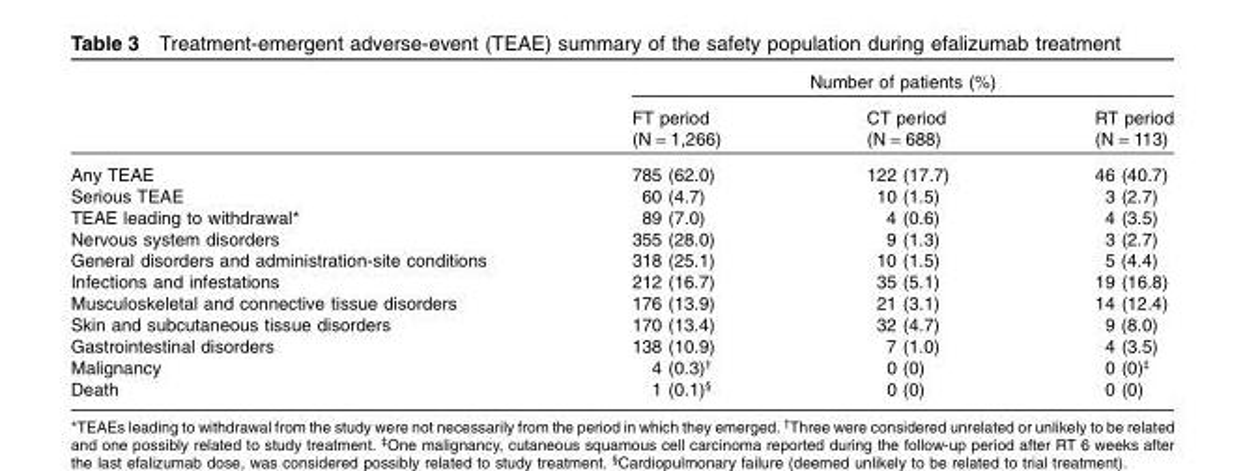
<table><thead><tr><td rowspan="2"></td><td colspan="3">Number of patients (%)</td></tr><tr><td>FT period (N = 1,266)</td><td>CT period (N = 688)</td><td>RT period (N = 113)</td></tr></thead><tbody><tr><td>Any TEAE</td><td>785 (62.0)</td><td>122 (17.7)</td><td>46 (40.7)</td></tr><tr><td>Serious TEAE</td><td>60 (4.7)</td><td>10 (1.5)</td><td>3 (2.7)</td></tr><tr><td>TEAE leading to withdrawal*</td><td>89 (7.0)</td><td>4 (0.6)</td><td>4 (3.5)</td></tr><tr><td>Nervous system disorders</td><td>355 (28.0)</td><td>9 (1.3)</td><td>3 (2.7)</td></tr><tr><td>General disorders and administration-site conditions</td><td>318 (25.1)</td><td>10 (1.5)</td><td>5 (4.4)</td></tr><tr><td>Infections and infestations</td><td>212 (16.7)</td><td>35 (5.1)</td><td>19 (16.8)</td></tr><tr><td>Musculoskeletal and connective tissue disorders</td><td>176 (13.9)</td><td>21 (3.1)</td><td>14 (12.4)</td></tr><tr><td>Skin and subcutaneous tissue disorders</td><td>170 (13.4)</td><td>32 (4.7)</td><td>9 (8.0)</td></tr><tr><td>Gastrointestinal disorders</td><td>138 (10.9)</td><td>7 (1.0)</td><td>4 (3.5)</td></tr><tr><td>Malignancy</td><td>4 (0.3)†</td><td>0 (0)</td><td>0 (0)‡</td></tr><tr><td>Death</td><td>1 (0.1)§</td><td>0 (0)</td><td>0 (0)</td></tr></tbody></table>